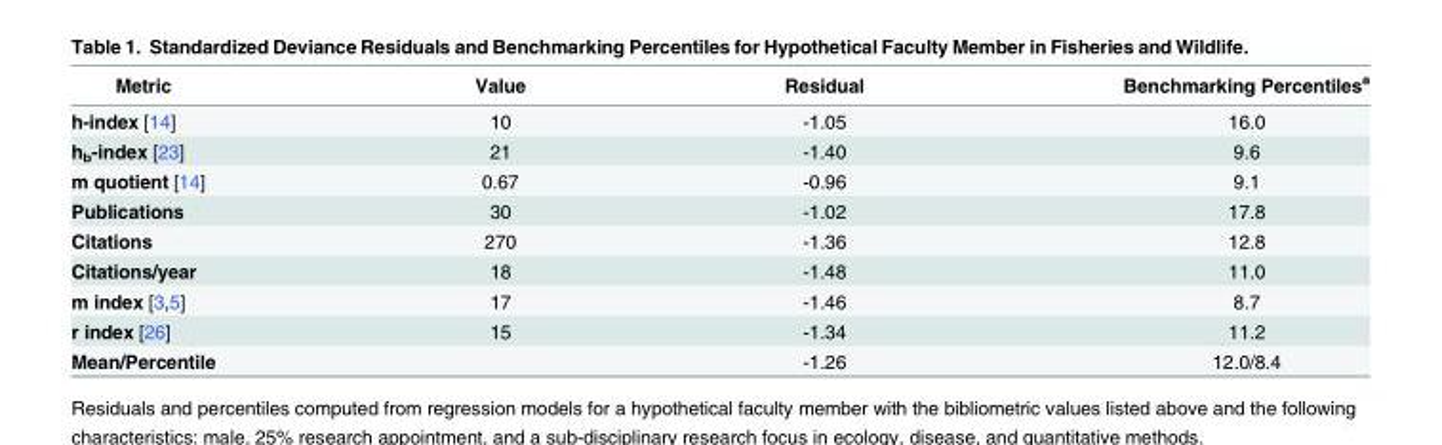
<table><thead><tr><td>Metric</td><td>Value</td><td>Residual</td><td>Benchmarking Percentiles<sup>a</sup></td></tr></thead><tbody><tr><td>h-index [14]</td><td>10</td><td>-1.05</td><td>16.0</td></tr><tr><td>h<sub>b</sub>-index [23]</td><td>21</td><td>-1.40</td><td>9.6</td></tr><tr><td>m quotient [14]</td><td>0.67</td><td>-0.96</td><td>9.1</td></tr><tr><td>Publications</td><td>30</td><td>-1.02</td><td>17.8</td></tr><tr><td>Citations</td><td>270</td><td>-1.36</td><td>12.8</td></tr><tr><td>Citations/year</td><td>18</td><td>-1.48</td><td>11.0</td></tr><tr><td>m index [3,5]</td><td>17</td><td>-1.46</td><td>8.7</td></tr><tr><td>r index [26]</td><td>15</td><td>-1.34</td><td>11.2</td></tr><tr><td>Mean/Percentile</td><td></td><td>-1.26</td><td>12.0/8.4</td></tr></tbody></table>